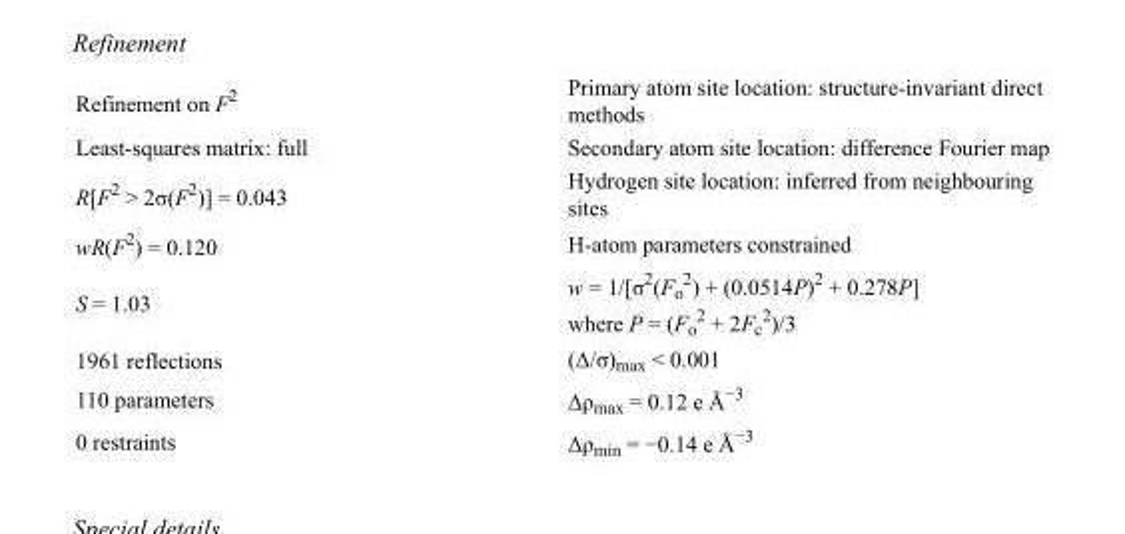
<table><tbody><tr><td>Refinement on F<sup>2</sup></td><td>Primary atom site location: structure-invariant direct methods</td></tr><tr><td>Least-squares matrix: full</td><td>Secondary atom site location: difference Fourier map</td></tr><tr><td>R[F<sup>2</sup> &gt; 2σ(F<sup>2</sup>)] = 0.043</td><td>Hydrogen site location: inferred from neighbouring sites</td></tr><tr><td>wR(F<sup>2</sup>) = 0.120</td><td>H-atom parameters constrained</td></tr><tr><td>S = 1.03</td><td>w = 1/[σ<sup>2</sup>(F<sub>o</sub> <sup>2</sup>) + (0.0514P)<sup>2</sup> + 0.278P] where P = (F<sub>o</sub> <sup>2</sup> + 2F<sub>c</sub> <sup>2</sup>)/3</td></tr><tr><td>1961 reflections</td><td>(Δ/σ)<sub>max</sub> &lt; 0.001</td></tr><tr><td>110 parameters</td><td>Δρ<sub>max</sub> = 0.12 e Å<sup>−3</sup></td></tr><tr><td>0 restraints</td><td>Δρ<sub>min</sub> = −0.14 e Å<sup>−3</sup></td></tr></tbody></table>